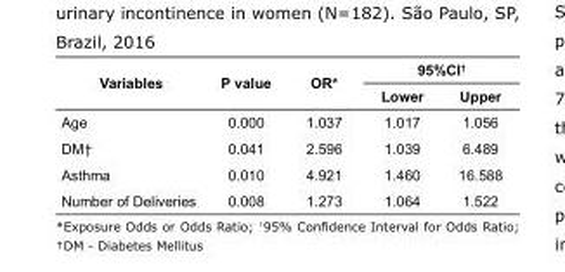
<table><tbody><tr><td rowspan="2">Variables</td><td rowspan="2">P value</td><td rowspan="2">OR*</td><td colspan="2">95%CI<sup>†</sup></td></tr><tr><td>Lower</td><td>Upper</td></tr><tr><td>Age</td><td>0.000</td><td>1.037</td><td>1.017</td><td>1.056</td></tr><tr><td>DM†</td><td>0.041</td><td>2.596</td><td>1.039</td><td>6.489</td></tr><tr><td>Asthma</td><td>0.010</td><td>4.921</td><td>1.460</td><td>16.588</td></tr><tr><td>Number of Deliveries</td><td>0.008</td><td>1.273</td><td>1.064</td><td>1.522</td></tr></tbody></table>